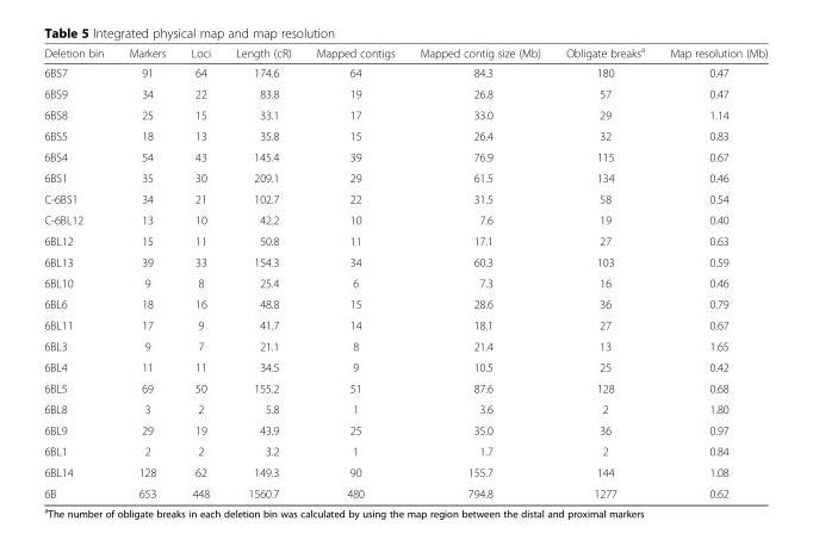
<table><thead><tr><td>Deletion bin</td><td>Markers</td><td>Loci</td><td>Length (cR)</td><td>Mapped contigs</td><td>Mapped contig size (Mb)</td><td>Obligate breaks<sup>a</sup></td><td>Map resolution (Mb)</td></tr></thead><tbody><tr><td>6BS7</td><td>91</td><td>64</td><td>174.6</td><td>64</td><td>84.3</td><td>180</td><td>0.47</td></tr><tr><td>6BS9</td><td>34</td><td>22</td><td>83.8</td><td>19</td><td>26.8</td><td>57</td><td>0.47</td></tr><tr><td>6BS8</td><td>25</td><td>15</td><td>33.1</td><td>17</td><td>33.0</td><td>29</td><td>1.14</td></tr><tr><td>6BS5</td><td>18</td><td>13</td><td>35.8</td><td>15</td><td>26.4</td><td>32</td><td>0.83</td></tr><tr><td>6BS4</td><td>54</td><td>43</td><td>145.4</td><td>39</td><td>76.9</td><td>115</td><td>0.67</td></tr><tr><td>6BS1</td><td>35</td><td>30</td><td>209.1</td><td>29</td><td>61.5</td><td>134</td><td>0.46</td></tr><tr><td>C-6BS1</td><td>34</td><td>21</td><td>102.7</td><td>22</td><td>31.5</td><td>58</td><td>0.54</td></tr><tr><td>C-6BL12</td><td>13</td><td>10</td><td>42.2</td><td>10</td><td>7.6</td><td>19</td><td>0.40</td></tr><tr><td>6BL12</td><td>15</td><td>11</td><td>50.8</td><td>11</td><td>17.1</td><td>27</td><td>0.63</td></tr><tr><td>6BL13</td><td>39</td><td>33</td><td>154.3</td><td>34</td><td>60.3</td><td>103</td><td>0.59</td></tr><tr><td>6BL10</td><td>9</td><td>8</td><td>25.4</td><td>6</td><td>7.3</td><td>16</td><td>0.46</td></tr><tr><td>6BL6</td><td>18</td><td>16</td><td>48.8</td><td>15</td><td>28.6</td><td>36</td><td>0.79</td></tr><tr><td>6BL11</td><td>17</td><td>9</td><td>41.7</td><td>14</td><td>18.1</td><td>27</td><td>0.67</td></tr><tr><td>6BL3</td><td>9</td><td>7</td><td>21.1</td><td>8</td><td>21.4</td><td>13</td><td>1.65</td></tr><tr><td>6BL4</td><td>11</td><td>11</td><td>34.5</td><td>9</td><td>10.5</td><td>25</td><td>0.42</td></tr><tr><td>6BL5</td><td>69</td><td>50</td><td>155.2</td><td>51</td><td>87.6</td><td>128</td><td>0.68</td></tr><tr><td>6BL8</td><td>3</td><td>2</td><td>5.8</td><td>1</td><td>3.6</td><td>2</td><td>1.80</td></tr><tr><td>6BL9</td><td>29</td><td>19</td><td>43.9</td><td>25</td><td>35.0</td><td>36</td><td>0.97</td></tr><tr><td>6BL1</td><td>2</td><td>2</td><td>3.2</td><td>1</td><td>1.7</td><td>2</td><td>0.84</td></tr><tr><td>6BL14</td><td>128</td><td>62</td><td>149.3</td><td>90</td><td>155.7</td><td>144</td><td>1.08</td></tr><tr><td>6B</td><td>653</td><td>448</td><td>1560.7</td><td>480</td><td>794.8</td><td>1277</td><td>0.62</td></tr></tbody></table>